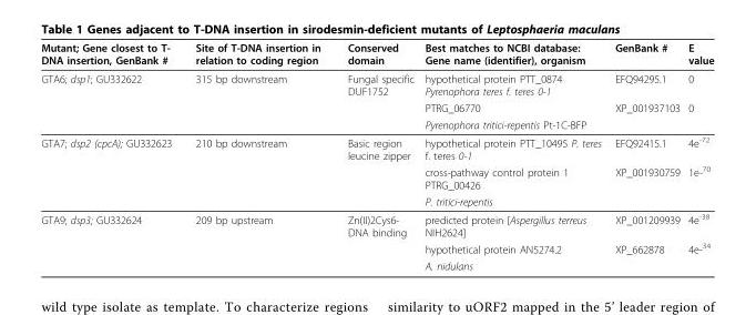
<table><thead><tr><td>Mutant; Gene closest to T- DNA insertion, GenBank #</td><td>Site of T-DNA insertion in relation to coding region</td><td>Conserved domain</td><td>Best matches to NCBI database: Gene name (identifier), organism</td><td>GenBank #</td><td>E value</td></tr></thead><tbody><tr><td rowspan="3">GTA6; dsp1; GU332622</td><td>315 bp downstream</td><td>Fungal specific DUF1752</td><td>hypothetical protein PTT_0874 Pyrenophora teres f. teres 0-1</td><td>EFQ94295.1</td><td>0</td></tr><tr><td></td><td></td><td>PTRG_06770</td><td>XP_001937103</td><td>0</td></tr><tr><td></td><td></td><td>Pyrenophora tritici-repentis Pt-1C-BFP</td><td></td><td></td></tr><tr><td rowspan="3">GTA7; dsp2 (cpcA); GU332623</td><td>210 bp downstream</td><td>Basic region leucine zipper</td><td>hypothetical protein PTT_10495 P. teres f. teres 0-1</td><td>EFQ92415.1</td><td>4e<sup>-72</sup></td></tr><tr><td></td><td></td><td>cross-pathway control protein 1 PTRG_00426</td><td>XP_001930759</td><td>1e-<sup>70</sup></td></tr><tr><td></td><td></td><td>P. tritici-repentis</td><td></td><td></td></tr><tr><td rowspan="3">GTA9; dsp3; GU332624</td><td>209 bp upstream</td><td>Zn(II)2Cys6- DNA binding</td><td>predicted protein [Aspergillus terreus NIH2624]</td><td>XP_001209939</td><td>4e<sup>-38</sup></td></tr><tr><td></td><td></td><td>hypothetical protein AN5274.2</td><td>XP_662878</td><td>4e-<sup>34</sup></td></tr><tr><td></td><td></td><td>A. nidulans</td><td></td><td></td></tr></tbody></table>